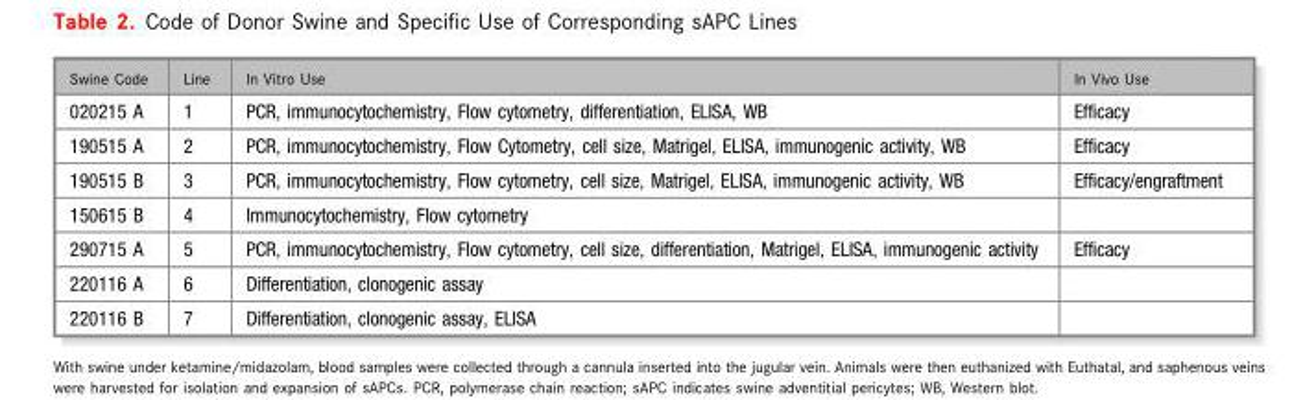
<table><thead><tr><td>Swine Code</td><td>Line</td><td>In Vitro Use</td><td>In Vivo Use</td></tr></thead><tbody><tr><td>020215 A</td><td>1</td><td>PCR, immunocytochemistry, Flow cytometry, differentiation, ELISA, WB</td><td>Efficacy</td></tr><tr><td>190515 A</td><td>2</td><td>PCR, immunocytochemistry, Flow Cytometry, cell size, Matrigel, ELISA, immunogenic activity, WB</td><td>Efficacy</td></tr><tr><td>190515 B</td><td>3</td><td>PCR, immunocytochemistry, Flow cytometry, cell size, Matrigel, ELISA, immunogenic activity, WB</td><td>Efficacy/engraftment</td></tr><tr><td>150615 B</td><td>4</td><td>Immunocytochemistry, Flow cytometry</td><td></td></tr><tr><td>290715 A</td><td>5</td><td>PCR, immunocytochemistry, Flow cytometry, cell size, differentiation, Matrigel, ELISA, immunogenic activity</td><td>Efficacy</td></tr><tr><td>220116 A</td><td>6</td><td>Differentiation, clonogenic assay</td><td></td></tr><tr><td>220116 B</td><td>7</td><td>Differentiation, clonogenic assay, ELISA</td><td></td></tr></tbody></table>